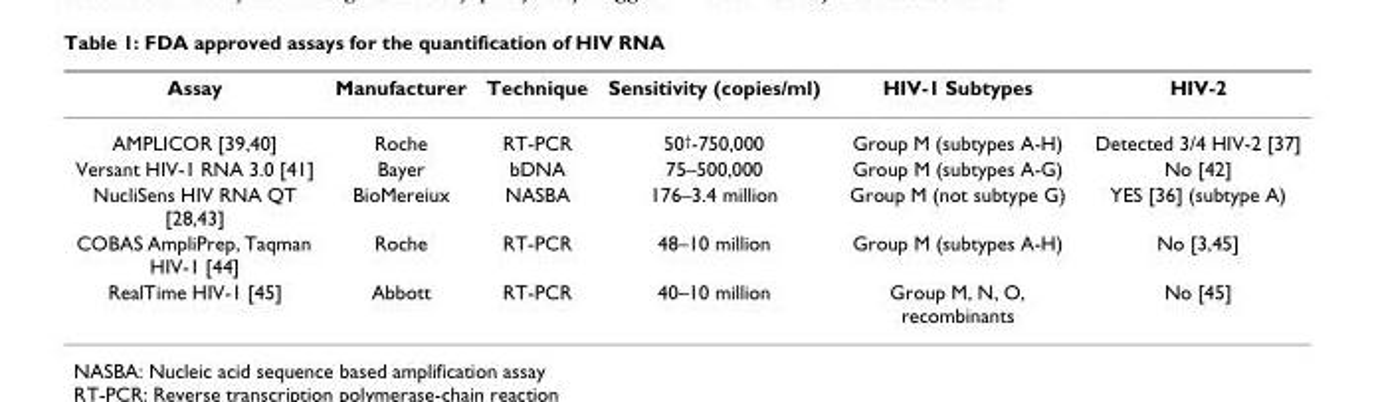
<table><thead><tr><td>Assay</td><td>Manufacturer</td><td>Technique</td><td>Sensitivity (copies/ml)</td><td>HIV-1 Subtypes</td><td>HIV-2</td></tr></thead><tbody><tr><td>AMPLICOR [39,40]</td><td>Roche</td><td>RT-PCR</td><td>50<sup>†</sup>-750,000</td><td>Group M (subtypes A-H)</td><td>Detected 3/4 HIV-2 [37]</td></tr><tr><td>Versant HIV-1 RNA 3.0 [41]</td><td>Bayer</td><td>bDNA</td><td>75–500,000</td><td>Group M (subtypes A-G)</td><td>No [42]</td></tr><tr><td>NucliSens HIV RNA QT [28,43]</td><td>BioMereiux</td><td>NASBA</td><td>176–3.4 million</td><td>Group M (not subtype G)</td><td>YES [36] (subtype A)</td></tr><tr><td>COBAS AmpliPrep, Taqman HIV-1 [44]</td><td>Roche</td><td>RT-PCR</td><td>48–10 million</td><td>Group M (subtypes A-H)</td><td>No [3,45]</td></tr><tr><td>RealTime HIV-1 [45]</td><td>Abbott</td><td>RT-PCR</td><td>40–10 million</td><td>Group M, N, O, recombinants</td><td>No [45]</td></tr></tbody></table>